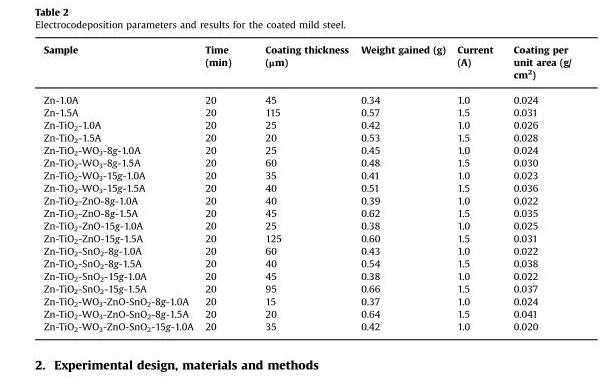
<table><thead><tr><td>Sample</td><td>Time (min)</td><td>Coating thickness (μm)</td><td>Weight gained (g)</td><td>Current (A)</td><td>Coating per unit area (g/ cm<sup>2</sup>)</td></tr></thead><tbody><tr><td>Zn-1.0A</td><td>20</td><td>45</td><td>0.34</td><td>1.0</td><td>0.024</td></tr><tr><td>Zn-1.5A</td><td>20</td><td>115</td><td>0.57</td><td>1.5</td><td>0.031</td></tr><tr><td>Zn-TiO<sub>2</sub>-1.0A</td><td>20</td><td>25</td><td>0.42</td><td>1.0</td><td>0.026</td></tr><tr><td>Zn-TiO<sub>2</sub>-1.5A</td><td>20</td><td>20</td><td>0.53</td><td>1.5</td><td>0.028</td></tr><tr><td>Zn-TiO<sub>2</sub>-WO<sub>3</sub>-8g-1.0A</td><td>20</td><td>25</td><td>0.45</td><td>1.0</td><td>0.024</td></tr><tr><td>Zn-TiO<sub>2</sub>-WO<sub>3</sub>-8g-1.5A</td><td>20</td><td>60</td><td>0.48</td><td>1.5</td><td>0.030</td></tr><tr><td>Zn-TiO<sub>2</sub>-WO<sub>3</sub>-15g-1.0A</td><td>20</td><td>35</td><td>0.41</td><td>1.0</td><td>0.023</td></tr><tr><td>Zn-TiO<sub>2</sub>-WO<sub>3</sub>-15g-1.5A</td><td>20</td><td>40</td><td>0.51</td><td>1.5</td><td>0.036</td></tr><tr><td>Zn-TiO<sub>2</sub>-ZnO-8g-1.0A</td><td>20</td><td>40</td><td>0.39</td><td>1.0</td><td>0.022</td></tr><tr><td>Zn-TiO<sub>2</sub>-ZnO-8g-1.5A</td><td>20</td><td>45</td><td>0.62</td><td>1.5</td><td>0.035</td></tr><tr><td>Zn-TiO<sub>2</sub>-ZnO-15g-1.0A</td><td>20</td><td>25</td><td>0.38</td><td>1.0</td><td>0.025</td></tr><tr><td>Zn-TiO<sub>2</sub>-ZnO-15g-1.5A</td><td>20</td><td>125</td><td>0.60</td><td>1.5</td><td>0.031</td></tr><tr><td>Zn-TiO<sub>2</sub>-SnO<sub>2</sub>-8g-1.0A</td><td>20</td><td>60</td><td>0.43</td><td>1.0</td><td>0.022</td></tr><tr><td>Zn-TiO<sub>2</sub>-SnO<sub>2</sub>-8g-1.5A</td><td>20</td><td>40</td><td>0.54</td><td>1.5</td><td>0.038</td></tr><tr><td>Zn-TiO<sub>2</sub>-SnO<sub>2</sub>-15g-1.0A</td><td>20</td><td>45</td><td>0.38</td><td>1.0</td><td>0.022</td></tr><tr><td>Zn-TiO<sub>2</sub>-SnO<sub>2</sub>-15g-1.5A</td><td>20</td><td>95</td><td>0.66</td><td>1.5</td><td>0.037</td></tr><tr><td>Zn-TiO<sub>2</sub>-WO<sub>3</sub>-ZnO-SnO<sub>2</sub>-8g-1.0A</td><td>20</td><td>15</td><td>0.37</td><td>1.0</td><td>0.024</td></tr><tr><td>Zn-TiO<sub>2</sub>-WO<sub>3</sub>-ZnO-SnO<sub>2</sub>-8g-1.5A</td><td>20</td><td>20</td><td>0.64</td><td>1.5</td><td>0.041</td></tr><tr><td>Zn-TiO<sub>2</sub>-WO<sub>3</sub>-ZnO-SnO<sub>2</sub>-15g-1.0A</td><td>20</td><td>35</td><td>0.42</td><td>1.0</td><td>0.020</td></tr></tbody></table>